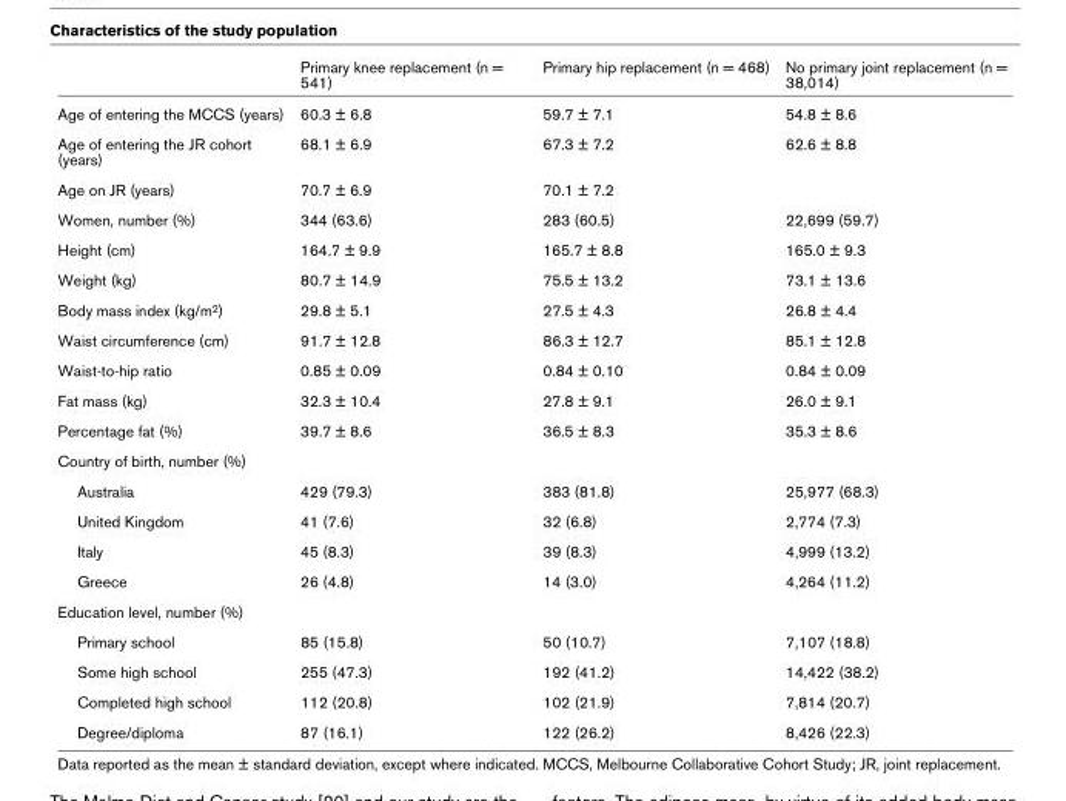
<table><thead><tr><td></td><td>Primary knee replacement (n = 541)</td><td>Primary hip replacement (n = 468)</td><td>No primary joint replacement (n = 38,014)</td></tr></thead><tbody><tr><td>Age of entering the MCCS (years)</td><td>60.3 ± 6.8</td><td>59.7 ± 7.1</td><td>54.8 ± 8.6</td></tr><tr><td>Age of entering the JR cohort (years)</td><td>68.1 ± 6.9</td><td>67.3 ± 7.2</td><td>62.6 ± 8.8</td></tr><tr><td>Age on JR (years)</td><td>70.7 ± 6.9</td><td>70.1 ± 7.2</td><td></td></tr><tr><td>Women, number (%)</td><td>344 (63.6)</td><td>283 (60.5)</td><td>22,699 (59.7)</td></tr><tr><td>Height (cm)</td><td>164.7 ± 9.9</td><td>165.7 ± 8.8</td><td>165.0 ± 9.3</td></tr><tr><td>Weight (kg)</td><td>80.7 ± 14.9</td><td>75.5 ± 13.2</td><td>73.1 ± 13.6</td></tr><tr><td>Body mass index (kg/m<sup>2</sup>)</td><td>29.8 ± 5.1</td><td>27.5 ± 4.3</td><td>26.8 ± 4.4</td></tr><tr><td>Waist circumference (cm)</td><td>91.7 ± 12.8</td><td>86.3 ± 12.7</td><td>85.1 ± 12.8</td></tr><tr><td>Waist-to-hip ratio</td><td>0.85 ± 0.09</td><td>0.84 ± 0.10</td><td>0.84 ± 0.09</td></tr><tr><td>Fat mass (kg)</td><td>32.3 ± 10.4</td><td>27.8 ± 9.1</td><td>26.0 ± 9.1</td></tr><tr><td>Percentage fat (%)</td><td>39.7 ± 8.6</td><td>36.5 ± 8.3</td><td>35.3 ± 8.6</td></tr><tr><td colspan="4">Country of birth, number (%)</td></tr><tr><td>Australia</td><td>429 (79.3)</td><td>383 (81.8)</td><td>25,977 (68.3)</td></tr><tr><td>United Kingdom</td><td>41 (7.6)</td><td>32 (6.8)</td><td>2,774 (7.3)</td></tr><tr><td>Italy</td><td>45 (8.3)</td><td>39 (8.3)</td><td>4,999 (13.2)</td></tr><tr><td>Greece</td><td>26 (4.8)</td><td>14 (3.0)</td><td>4,264 (11.2)</td></tr><tr><td colspan="4">Education level, number (%)</td></tr><tr><td>Primary school</td><td>85 (15.8)</td><td>50 (10.7)</td><td>7,107 (18.8)</td></tr><tr><td>Some high school</td><td>255 (47.3)</td><td>192 (41.2)</td><td>14,422 (38.2)</td></tr><tr><td>Completed high school</td><td>112 (20.8)</td><td>102 (21.9)</td><td>7,814 (20.7)</td></tr><tr><td>Degree/diploma</td><td>87 (16.1)</td><td>122 (26.2)</td><td>8,426 (22.3)</td></tr></tbody></table>